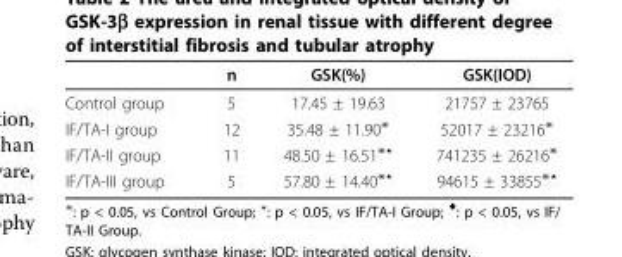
<table><thead><tr><td></td><td>n</td><td>GSK(%)</td><td>GSK(IOD)</td></tr></thead><tbody><tr><td>Control group</td><td>5</td><td>17.45 ± 19.63</td><td>21757 ± 23765</td></tr><tr><td>IF/TA-I group</td><td>12</td><td>35.48 ± 11.90<sup>⋇</sup></td><td>52017 ± 23216<sup>⋇</sup></td></tr><tr><td>IF/TA-II group</td><td>11</td><td>48.50 ± 16.51<sup>⋇⋆</sup></td><td>741235 ± 26216<sup>⋇</sup></td></tr><tr><td>IF/TA-III group</td><td>5</td><td>57.80 ± 14.40<sup>⋇⋆</sup></td><td>94615 ± 33855<sup>⋇⋆</sup></td></tr></tbody></table>